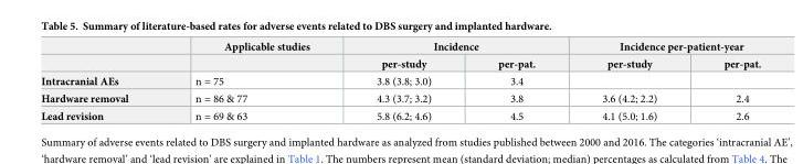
<table><thead><tr><td rowspan="2"></td><td rowspan="2">Applicable studies</td><td colspan="2">Incidence</td><td colspan="2">Incidence per-patient-year</td></tr><tr><td>per-study</td><td>per-pat.</td><td>per-study</td><td>per-pat.</td></tr></thead><tbody><tr><td>Intracranial AEs</td><td>n = 75</td><td>3.8 (3.8; 3.0)</td><td>3.4</td><td></td><td></td></tr><tr><td>Hardware removal</td><td>n = 86 &amp; 77</td><td>4.3 (3.7; 3.2)</td><td>3.8</td><td>3.6 (4.2; 2.2)</td><td>2.4</td></tr><tr><td>Lead revision</td><td>n = 69 &amp; 63</td><td>5.8 (6.2; 4.6)</td><td>4.5</td><td>4.1 (5.0; 1.6)</td><td>2.6</td></tr></tbody></table>